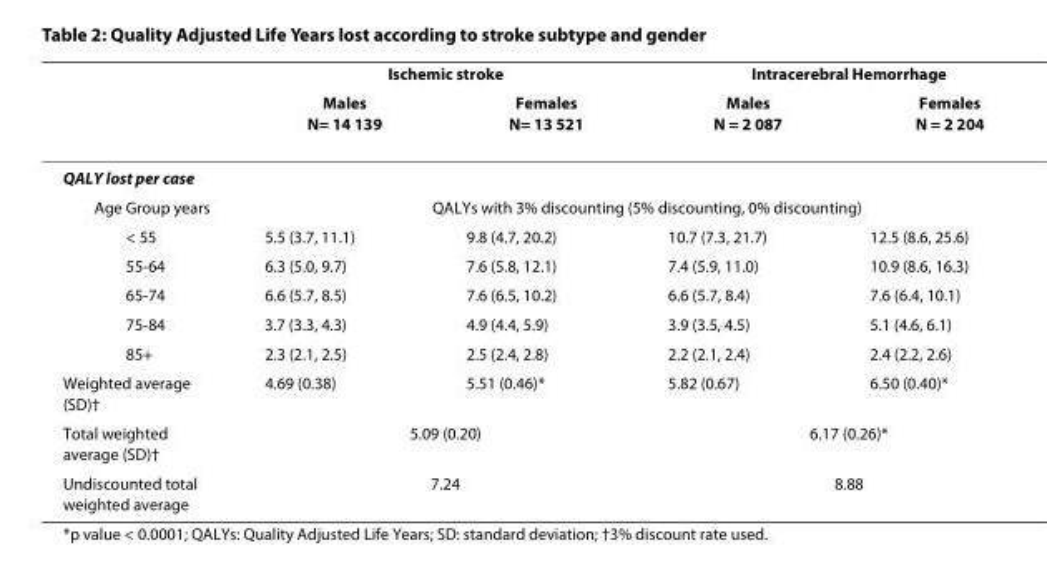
<table><thead><tr><td rowspan="2"></td><td colspan="2">Ischemic stroke</td><td colspan="2">Intracerebral Hemorrhage</td></tr><tr><td>Males N= 14 139</td><td>Females N= 13 521</td><td>Males N = 2 087</td><td>Females N = 2 204</td></tr></thead><tbody><tr><td colspan="5">QALY lost per case</td></tr><tr><td>Age Group years</td><td colspan="4">QALYs with 3% discounting (5% discounting, 0% discounting)</td></tr><tr><td>&lt; 55</td><td>5.5 (3.7, 11.1)</td><td>9.8 (4.7, 20.2)</td><td>10.7 (7.3, 21.7)</td><td>12.5 (8.6, 25.6)</td></tr><tr><td>55-64</td><td>6.3 (5.0, 9.7)</td><td>7.6 (5.8, 12.1)</td><td>7.4 (5.9, 11.0)</td><td>10.9 (8.6, 16.3)</td></tr><tr><td>65-74</td><td>6.6 (5.7, 8.5)</td><td>7.6 (6.5, 10.2)</td><td>6.6 (5.7, 8.4)</td><td>7.6 (6.4, 10.1)</td></tr><tr><td>75-84</td><td>3.7 (3.3, 4.3)</td><td>4.9 (4.4, 5.9)</td><td>3.9 (3.5, 4.5)</td><td>5.1 (4.6, 6.1)</td></tr><tr><td>85+</td><td>2.3 (2.1, 2.5)</td><td>2.5 (2.4, 2.8)</td><td>2.2 (2.1, 2.4)</td><td>2.4 (2.2, 2.6)</td></tr><tr><td>Weighted average (SD)†</td><td>4.69 (0.38)</td><td>5.51 (0.46)*</td><td>5.82 (0.67)</td><td>6.50 (0.40)*</td></tr><tr><td>Total weighted average (SD)†</td><td colspan="2">5.09 (0.20)</td><td colspan="2">6.17 (0.26)*</td></tr><tr><td>Undiscounted total weighted average</td><td colspan="2">7.24</td><td colspan="2">8.88</td></tr></tbody></table>